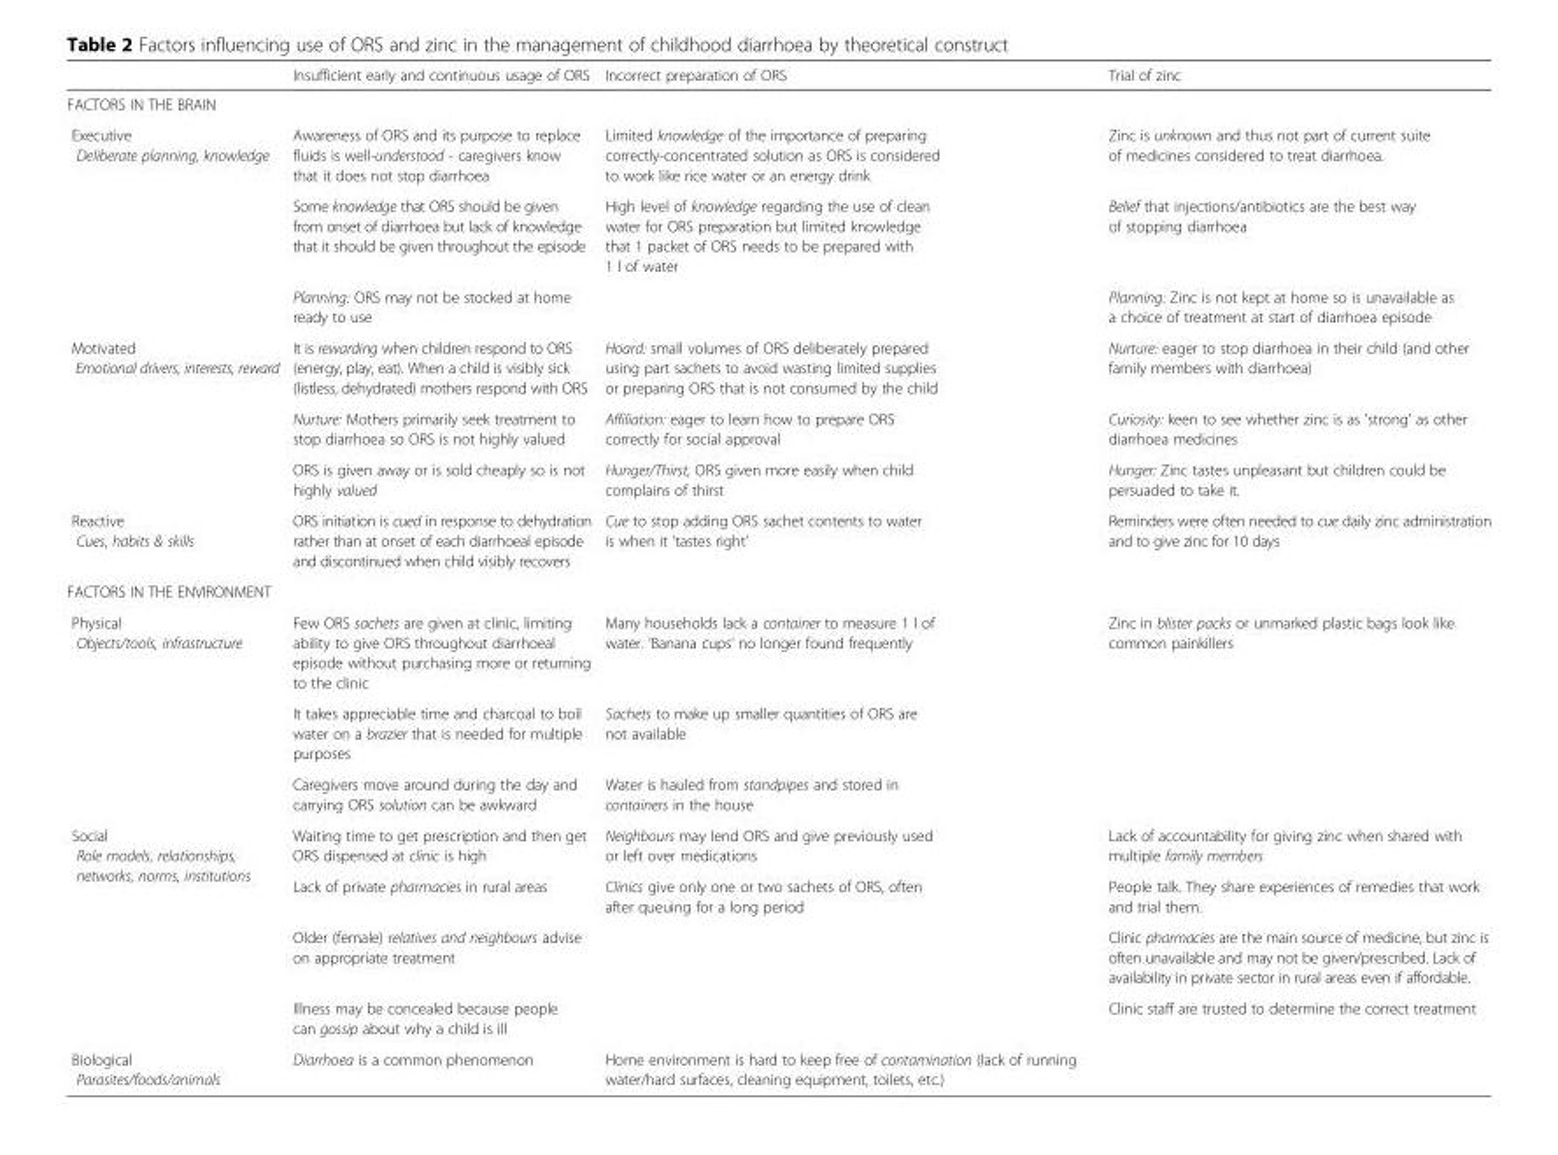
<table><thead><tr><td></td><td>Insufficient early and continuous usage of ORS</td><td>Incorrect preparation of ORS</td><td>Trial of zinc</td></tr></thead><tbody><tr><td colspan="4">FACTORS IN THE BRAIN</td></tr><tr><td rowspan="3">Executive Deliberate planning, knowledge</td><td>Awareness of ORS and its purpose to replace fluids is well-understood - caregivers know that it does not stop diarrhoea</td><td>Limited knowledge of the importance of preparing correctly-concentrated solution as ORS is considered to work like rice water or an energy drink</td><td>Zinc is unknown and thus not part of current suite of medicines considered to treat diarrhoea.</td></tr><tr><td>Some knowledge that ORS should be given from onset of diarrhoea but lack of knowledge that it should be given throughout the episode</td><td>High level of knowledge regarding the use of clean water for ORS preparation but limited knowledge that 1 packet of ORS needs to be prepared with 1 l of water</td><td>Belief that injections/antibiotics are the best way of stopping diarrhoea</td></tr><tr><td>Planning: ORS may not be stocked at home ready to use</td><td></td><td>Planning: Zinc is not kept at home so is unavailable as a choice of treatment at start of diarrhoea episode</td></tr><tr><td rowspan="3">Motivated Emotional drivers, interests, reward</td><td>It is rewarding when children respond to ORS (energy, play, eat). When a child is visibly sick (listless, dehydrated) mothers respond with ORS</td><td>Hoard: small volumes of ORS deliberately prepared using part sachets to avoid wasting limited supplies or preparing ORS that is not consumed by the child</td><td>Nurture: eager to stop diarrhoea in their child (and other family members with diarrhoea)</td></tr><tr><td>Nurture: Mothers primarily seek treatment to stop diarrhoea so ORS is not highly valued</td><td>Affiliation: eager to learn how to prepare ORS correctly for social approval</td><td>Curiosity: keen to see whether zinc is as &#x27;strong&#x27; as other diarrhoea medicines</td></tr><tr><td>ORS is given away or is sold cheaply so is not highly valued</td><td>Hunger/Thirst, ORS given more easily when child complains of thirst</td><td>Hunger: Zinc tastes unpleasant but children could be persuaded to take it.</td></tr><tr><td>Reactive Cues, habits &amp; skills</td><td>ORS initiation is cued in response to dehydration rather than at onset of each diarrhoeal episode and discontinued when child visibly recovers</td><td>Cue to stop adding ORS sachet contents to water is when it ‘tastes right’</td><td>Reminders were often needed to cue daily zinc administration and to give zinc for 10 days</td></tr><tr><td colspan="4">FACTORS IN THE ENVIRONMENT</td></tr><tr><td rowspan="3">Physical Objects/tools, infrastructure</td><td>Few ORS sachets are given at clinic, limiting ability to give ORS throughout diarrhoeal episode without purchasing more or returning to the clinic</td><td>Many households lack a container to measure 1 l of water. ‘Banana cups’ no longer found frequently</td><td>Zinc in blister packs or unmarked plastic bags look like common painkillers</td></tr><tr><td>It takes appreciable time and charcoal to boil water on a brazier that is needed for multiple purposes</td><td>Sachets to make up smaller quantities of ORS are not available</td><td></td></tr><tr><td>Caregivers move around during the day and carrying ORS solution can be awkward</td><td>Water is hauled from standpipes and stored in containers in the house</td><td></td></tr><tr><td rowspan="4">Social Role models, relationships, networks, norms, institutions</td><td>Waiting time to get prescription and then get ORS dispensed at clinic is high</td><td>Neighbours may lend ORS and give previously used or left over medications</td><td>Lack of accountability for giving zinc when shared with multiple family members</td></tr><tr><td>Lack of private pharmacies in rural areas</td><td>Clinics give only one or two sachets of ORS, often after queuing for a long period</td><td>People talk. They share experiences of remedies that work and trial them.</td></tr><tr><td>Older (female) relatives and neighbours advise on appropriate treatment</td><td></td><td>Clinic pharmacies are the main source of medicine, but zinc is often unavailable and may not be given/prescribed. Lack of availability in private sector in rural areas even if affordable.</td></tr><tr><td>Illness may be concealed because people can gossip about why a child is ill</td><td></td><td>Clinic staff are trusted to determine the correct treatment</td></tr><tr><td>Biological Parasites/foods/animals</td><td>Diarrhoea is a common phenomenon</td><td>Home environment is hard to keep free of contamination (lack of running water/hard surfaces, cleaning equipment, toilets, etc.)</td><td></td></tr></tbody></table>